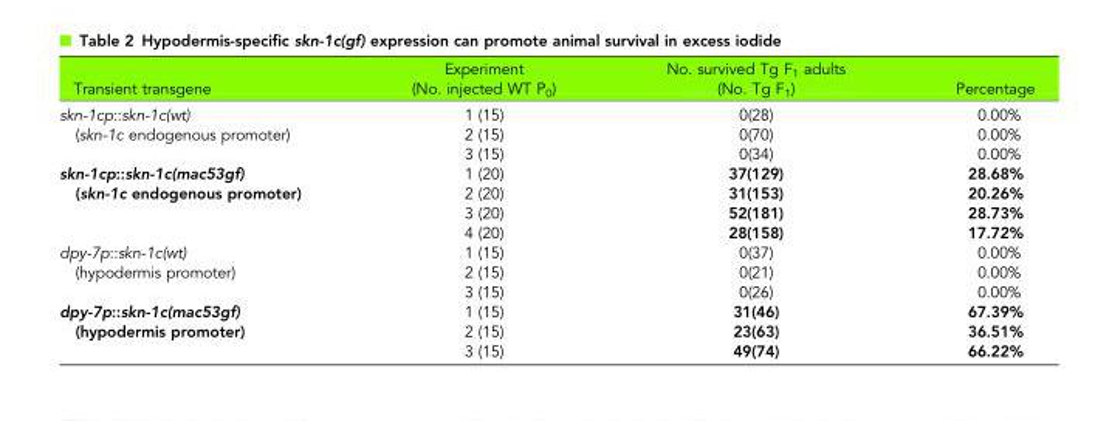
<table><thead><tr><td>Transient transgene</td><td>Experiment (No. injected WT P<sub>0</sub>)</td><td>No. survived Tg F<sub>1</sub> adults (No. Tg F<sub>1</sub>)</td><td>Percentage</td></tr></thead><tbody><tr><td rowspan="3">skn-1cp::skn-1c(wt) (skn-1c endogenous promoter)</td><td>1 (15)</td><td>0(28)</td><td>0.00%</td></tr><tr><td>2 (15)</td><td>0(70)</td><td>0.00%</td></tr><tr><td>3 (15)</td><td>0(34)</td><td>0.00%</td></tr><tr><td rowspan="4">skn-1cp::skn-1c(mac53gf) (skn-1c endogenous promoter)</td><td>1 (20)</td><td>37(129)</td><td>28.68%</td></tr><tr><td>2 (20)</td><td>31(153)</td><td>20.26%</td></tr><tr><td>3 (20)</td><td>52(181)</td><td>28.73%</td></tr><tr><td>4 (20)</td><td>28(158)</td><td>17.72%</td></tr><tr><td rowspan="3">dpy-7p::skn-1c(wt) (hypodermis promoter)</td><td>1 (15)</td><td>0(37)</td><td>0.00%</td></tr><tr><td>2 (15)</td><td>0(21)</td><td>0.00%</td></tr><tr><td>3 (15)</td><td>0(26)</td><td>0.00%</td></tr><tr><td rowspan="3">dpy-7p::skn-1c(mac53gf) (hypodermis promoter)</td><td>1 (15)</td><td>31(46)</td><td>67.39%</td></tr><tr><td>2 (15)</td><td>23(63)</td><td>36.51%</td></tr><tr><td>3 (15)</td><td>49(74)</td><td>66.22%</td></tr></tbody></table>